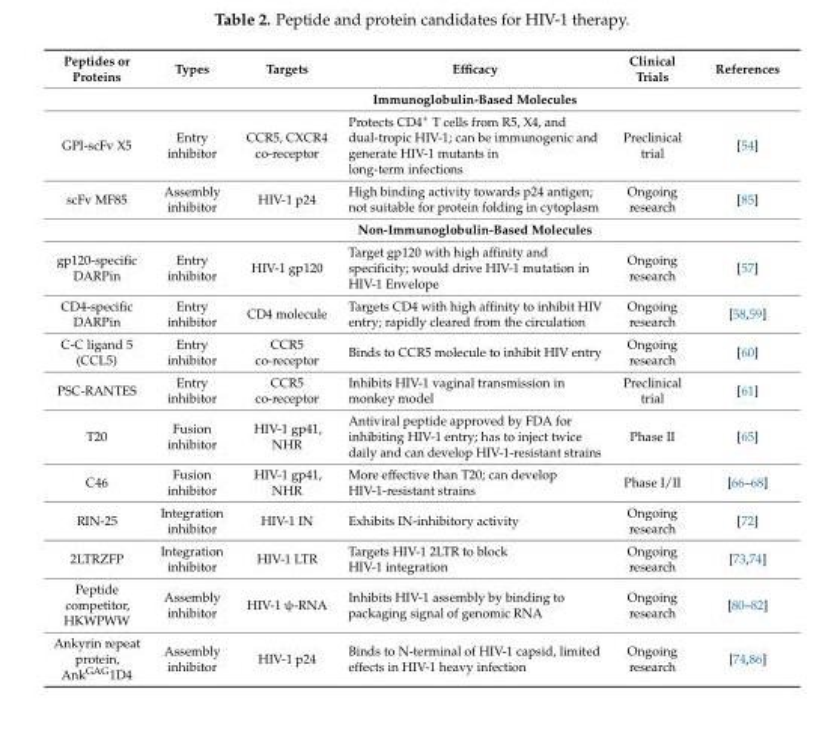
<table><thead><tr><td>Peptides or Proteins</td><td>Types</td><td>Targets</td><td>Efficacy</td><td>Clinical Trials</td><td>References</td></tr></thead><tbody><tr><td></td><td colspan="5">Immunoglobulin-Based Molecules</td></tr><tr><td>GPI-scFv X5</td><td>Entry inhibitor</td><td>CCR5, CXCR4 co-receptor</td><td>Protects CD4<sup>+</sup> T cells from R5, X4, and dual-tropic HIV-1; can be immunogenic and generate HIV-1 mutants in long-term infections</td><td>Preclinical trial</td><td>[54]</td></tr><tr><td rowspan="2">scFv MF85</td><td>Assembly inhibitor</td><td>HIV-1 p24</td><td>High binding activity towards p24 antigen; not suitable for protein folding in cytoplasm</td><td>Ongoing research</td><td>[85]</td></tr><tr><td colspan="5">Non-Immunoglobulin-Based Molecules</td></tr><tr><td>gp120-specific DARPin</td><td>Entry inhibitor</td><td>HIV-1 gp120</td><td>Target gp120 with high affinity and specificity; would drive HIV-1 mutation in HIV-1 Envelope</td><td>Ongoing research</td><td>[57]</td></tr><tr><td>CD4-specific DARPin</td><td>Entry inhibitor</td><td>CD4 molecule</td><td>Targets CD4 with high affinity to inhibit HIV entry; rapidly cleared from the circulation</td><td>Ongoing research</td><td>[58,59]</td></tr><tr><td>C-C ligand 5 (CCL5)</td><td>Entry inhibitor</td><td>CCR5 co-receptor</td><td>Binds to CCR5 molecule to inhibit HIV entry</td><td>Ongoing research</td><td>[60]</td></tr><tr><td>PSC-RANTES</td><td>Entry inhibitor</td><td>CCR5 co-receptor</td><td>Inhibits HIV-1 vaginal transmission in monkey model</td><td>Preclinical trial</td><td>[61]</td></tr><tr><td>T20</td><td>Fusion inhibitor</td><td>HIV-1 gp41, NHR</td><td>Antiviral peptide approved by FDA for inhibiting HIV-1 entry; has to inject twice daily and can develop HIV-1-resistant strains</td><td>Phase II</td><td>[65]</td></tr><tr><td>C46</td><td>Fusion inhibitor</td><td>HIV-1 gp41, NHR</td><td>More effective than T20; can develop HIV-1-resistant strains</td><td>Phase I/II</td><td>[66–68]</td></tr><tr><td>RIN-25</td><td>Integration inhibitor</td><td>HIV-1 IN</td><td>Exhibits IN-inhibitory activity</td><td>Ongoing research</td><td>[72]</td></tr><tr><td>2LTRZFP</td><td>Integration inhibitor</td><td>HIV-1 LTR</td><td>Targets HIV-1 2LTR to block HIV-1 integration</td><td>Ongoing research</td><td>[73,74]</td></tr><tr><td>Peptide competitor, HKWPWW</td><td>Assembly inhibitor</td><td>HIV-1 ψ-RNA</td><td>Inhibits HIV-1 assembly by binding to packaging signal of genomic RNA</td><td>Ongoing research</td><td>[80–82]</td></tr><tr><td>Ankyrin repeat protein, Ank<sup>GAG</sup>1D4</td><td>Assembly inhibitor</td><td>HIV-1 p24</td><td>Binds to N-terminal of HIV-1 capsid, limited effects in HIV-1 heavy infection</td><td>Ongoing research</td><td>[74,86]</td></tr></tbody></table>